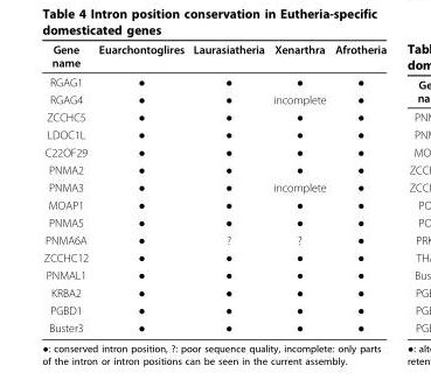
<table><thead><tr><td>Gene name</td><td>Euarchontoglires</td><td>Laurasiatheria</td><td>Xenarthra</td><td>Afrotheria</td></tr></thead><tbody><tr><td>RGAG1</td><td>●</td><td>●</td><td>●</td><td>●</td></tr><tr><td>RGAG4</td><td>●</td><td>●</td><td>incomplete</td><td>●</td></tr><tr><td>ZCCHC5</td><td>●</td><td>●</td><td>●</td><td>●</td></tr><tr><td>LDOC1L</td><td>●</td><td>●</td><td>●</td><td>●</td></tr><tr><td>C22OF29</td><td>●</td><td>●</td><td>●</td><td>●</td></tr><tr><td>PNMA2</td><td>●</td><td>●</td><td>●</td><td>●</td></tr><tr><td>PNMA3</td><td>●</td><td>●</td><td>incomplete</td><td>●</td></tr><tr><td>MOAP1</td><td>●</td><td>●</td><td>●</td><td>●</td></tr><tr><td>PNMA5</td><td>●</td><td>●</td><td>●</td><td>●</td></tr><tr><td>PNMA6A</td><td>●</td><td>?</td><td>?</td><td>●</td></tr><tr><td>ZCCHC12</td><td>●</td><td>●</td><td>●</td><td>●</td></tr><tr><td>PNMAL1</td><td>●</td><td>●</td><td>●</td><td>●</td></tr><tr><td>KRBA2</td><td>●</td><td>●</td><td>●</td><td>●</td></tr><tr><td>PGBD1</td><td>●</td><td>●</td><td>●</td><td>●</td></tr><tr><td>Buster3</td><td>●</td><td>●</td><td>●</td><td>●</td></tr></tbody></table>